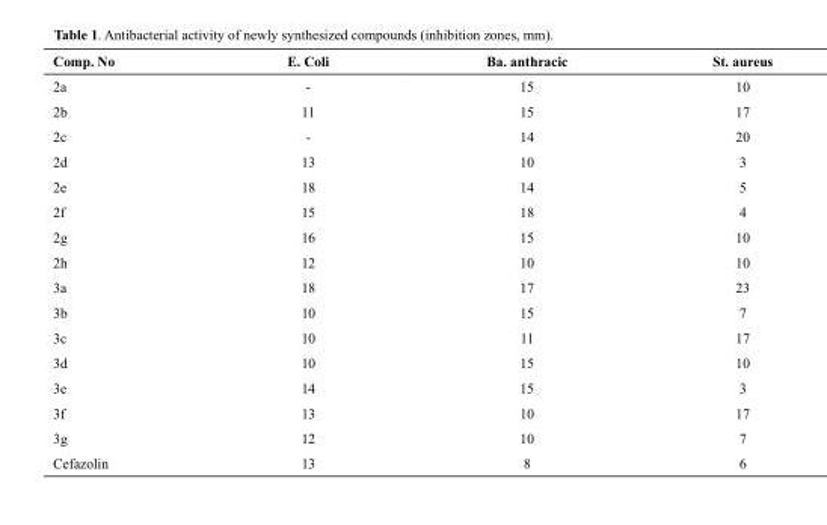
<table><thead><tr><td>Comp. No</td><td>E. Coli</td><td>Ba. anthracic</td><td>St. aureus</td></tr></thead><tbody><tr><td>2a</td><td>-</td><td>15</td><td>10</td></tr><tr><td>2b</td><td>11</td><td>15</td><td>17</td></tr><tr><td>2c</td><td>-</td><td>14</td><td>20</td></tr><tr><td>2d</td><td>13</td><td>10</td><td>3</td></tr><tr><td>2e</td><td>18</td><td>14</td><td>5</td></tr><tr><td>2f</td><td>15</td><td>18</td><td>4</td></tr><tr><td>2g</td><td>16</td><td>15</td><td>10</td></tr><tr><td>2h</td><td>12</td><td>10</td><td>10</td></tr><tr><td>3a</td><td>18</td><td>17</td><td>23</td></tr><tr><td>3b</td><td>10</td><td>15</td><td>7</td></tr><tr><td>3c</td><td>10</td><td>11</td><td>17</td></tr><tr><td>3d</td><td>10</td><td>15</td><td>10</td></tr><tr><td>3e</td><td>14</td><td>15</td><td>3</td></tr><tr><td>3f</td><td>13</td><td>10</td><td>17</td></tr><tr><td>3g</td><td>12</td><td>10</td><td>7</td></tr><tr><td>Cefazolin</td><td>13</td><td>8</td><td>6</td></tr></tbody></table>